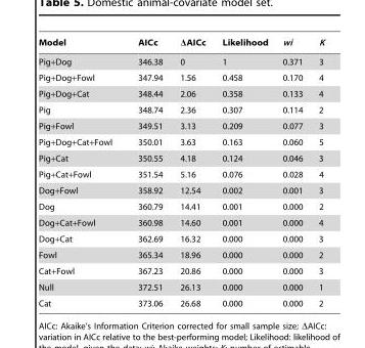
<table><thead><tr><td>Model</td><td>AICc</td><td>ΔAICc</td><td>Likelihood</td><td>wi</td><td>K</td></tr></thead><tbody><tr><td>Pig+Dog</td><td>346.38</td><td>0</td><td>1</td><td>0.371</td><td>3</td></tr><tr><td>Pig+Dog+Fowl</td><td>347.94</td><td>1.56</td><td>0.458</td><td>0.170</td><td>4</td></tr><tr><td>Pig+Dog+Cat</td><td>348.44</td><td>2.06</td><td>0.358</td><td>0.133</td><td>4</td></tr><tr><td>Pig</td><td>348.74</td><td>2.36</td><td>0.307</td><td>0.114</td><td>2</td></tr><tr><td>Pig+Fowl</td><td>349.51</td><td>3.13</td><td>0.209</td><td>0.077</td><td>3</td></tr><tr><td>Pig+Dog+Cat+Fowl</td><td>350.01</td><td>3.63</td><td>0.163</td><td>0.060</td><td>5</td></tr><tr><td>Pig+Cat</td><td>350.55</td><td>4.18</td><td>0.124</td><td>0.046</td><td>3</td></tr><tr><td>Pig+Cat+Fowl</td><td>351.54</td><td>5.16</td><td>0.076</td><td>0.028</td><td>4</td></tr><tr><td>Dog+Fowl</td><td>358.92</td><td>12.54</td><td>0.002</td><td>0.001</td><td>3</td></tr><tr><td>Dog</td><td>360.79</td><td>14.41</td><td>0.001</td><td>0.000</td><td>2</td></tr><tr><td>Dog+Cat+Fowl</td><td>360.98</td><td>14.60</td><td>0.001</td><td>0.000</td><td>4</td></tr><tr><td>Dog+Cat</td><td>362.69</td><td>16.32</td><td>0.000</td><td>0.000</td><td>3</td></tr><tr><td>Fowl</td><td>365.34</td><td>18.96</td><td>0.000</td><td>0.000</td><td>2</td></tr><tr><td>Cat+Fowl</td><td>367.23</td><td>20.86</td><td>0.000</td><td>0.000</td><td>3</td></tr><tr><td>Null</td><td>372.51</td><td>26.13</td><td>0.000</td><td>0.000</td><td>1</td></tr><tr><td>Cat</td><td>373.06</td><td>26.68</td><td>0.000</td><td>0.000</td><td>2</td></tr></tbody></table>